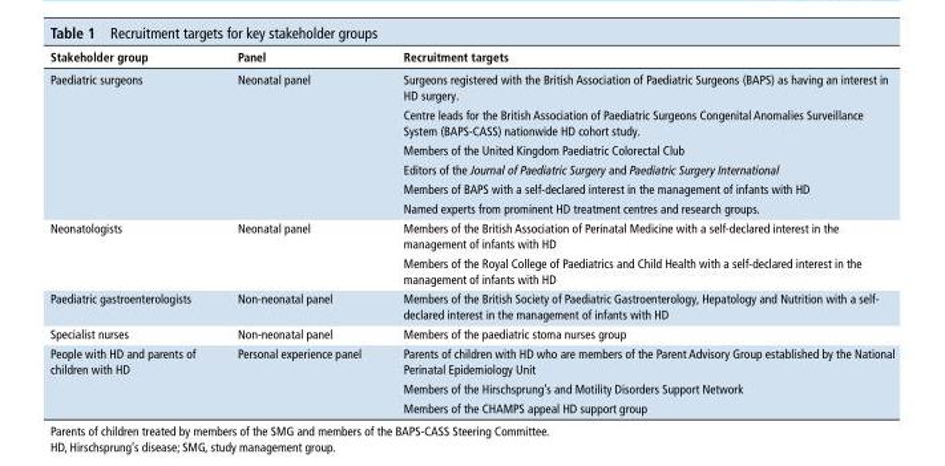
<table><thead><tr><td>stakeholder group</td><td>Panel</td><td>recruitment targets</td></tr></thead><tbody><tr><td rowspan="6">Paediatric surgeons</td><td rowspan="6">Neonatal panel</td><td>Surgeons registered with the British Association of Paediatric Surgeons (BAPS) as having an interest in HD surgery.</td></tr><tr><td>Centre leads for the British Association of Paediatric Surgeons Congenital Anomalies Surveillance System (BAPS-CASS) nationwide HD cohort study.</td></tr><tr><td>Members of the United Kingdom Paediatric Colorectal Club</td></tr><tr><td>Editors of the Journal of Paediatric Surgery and Paediatric Surgery International</td></tr><tr><td>Members of BAPS with a self-declared interest in the management of infants with HD</td></tr><tr><td>Named experts from prominent HD treatment centres and research groups.</td></tr><tr><td rowspan="2">Neonatologists</td><td rowspan="2">Neonatal panel</td><td>Members of the British Association of Perinatal Medicine with a self-declared interest in the management of infants with HD</td></tr><tr><td>Members of the Royal College of Paediatrics and Child Health with a self-declared interest in the management of infants with HD</td></tr><tr><td>Paediatric gastroenterologists</td><td>Non-neonatal panel</td><td>Members of the British Society of Paediatric Gastroenterology, Hepatology and Nutrition with a self- declared interest in the management of infants with HD</td></tr><tr><td>Specialist nurses</td><td>Non-neonatal panel</td><td>Members of the paediatric stoma nurses group</td></tr><tr><td rowspan="3">People with HD and parents of children with HD</td><td rowspan="3">Personal experience panel</td><td>Parents of children with HD who are members of the Parent Advisory Group established by the National Perinatal Epidemiology Unit</td></tr><tr><td>Members of the Hirschsprung’s and Motility Disorders Support Network</td></tr><tr><td>Members of the CHAMPS appeal HD support group</td></tr></tbody></table>